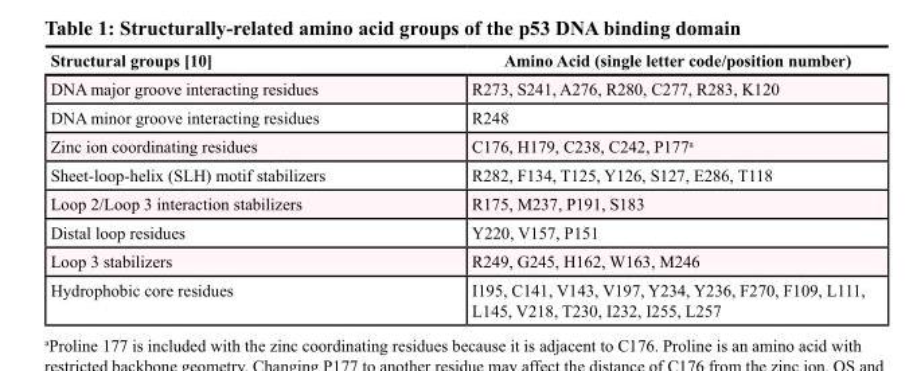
<table><thead><tr><td>Structural groups [10]</td><td>Amino Acid (single letter code/position number)</td></tr></thead><tbody><tr><td>DNA major groove interacting residues</td><td>R273, S241, A276, R280, C277, R283, K120</td></tr><tr><td>DNA minor groove interacting residues</td><td>R248</td></tr><tr><td>Zinc ion coordinating residues</td><td>C176, H179, C238, C242, P177<sup>a</sup></td></tr><tr><td>Sheet-loop-helix (SLH) motif stabilizers</td><td>R282, F134, T125, Y126, S127, E286, T118</td></tr><tr><td>Loop 2/Loop 3 interaction stabilizers</td><td>R175, M237, P191, S183</td></tr><tr><td>Distal loop residues</td><td>Y220, V157, P151</td></tr><tr><td>Loop 3 stabilizers</td><td>R249, G245, H162, W163, M246</td></tr><tr><td>Hydrophobic core residues</td><td>I195, C141, V143, V197, Y234, Y236, F270, F109, L111, L145, V218, T230, I232, I255, L257</td></tr></tbody></table>